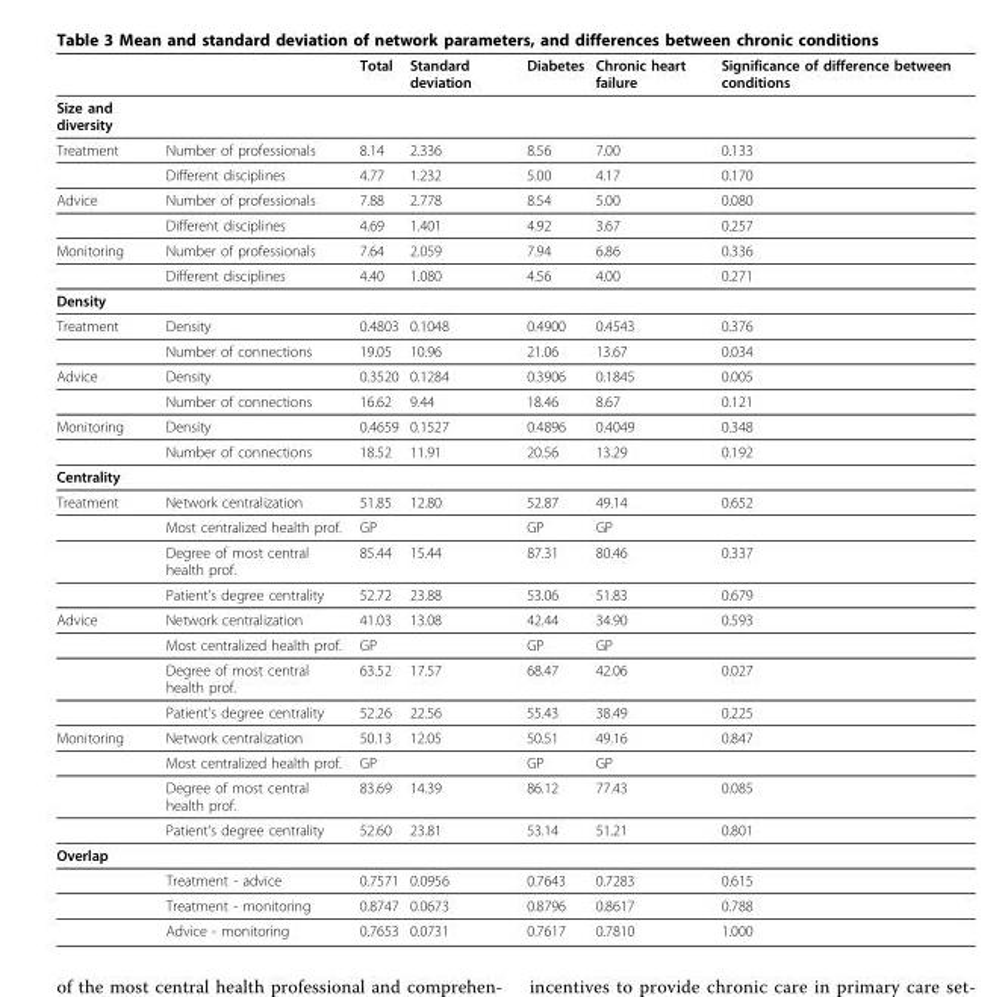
<table><thead><tr><td></td><td></td><td>Total</td><td>Standard deviation</td><td>Diabetes</td><td>Chronic heart failure</td><td>Significance of difference between conditions</td></tr></thead><tbody><tr><td colspan="7">Size and diversity</td></tr><tr><td rowspan="2">Treatment</td><td>Number of professionals</td><td>8.14</td><td>2.336</td><td>8.56</td><td>7.00</td><td>0.133</td></tr><tr><td>Different disciplines</td><td>4.77</td><td>1.232</td><td>5.00</td><td>4.17</td><td>0.170</td></tr><tr><td rowspan="2">Advice</td><td>Number of professionals</td><td>7.88</td><td>2.778</td><td>8.54</td><td>5.00</td><td>0.080</td></tr><tr><td>Different disciplines</td><td>4.69</td><td>1.401</td><td>4.92</td><td>3.67</td><td>0.257</td></tr><tr><td rowspan="2">Monitoring</td><td>Number of professionals</td><td>7.64</td><td>2.059</td><td>7.94</td><td>6.86</td><td>0.336</td></tr><tr><td>Different disciplines</td><td>4.40</td><td>1.080</td><td>4.56</td><td>4.00</td><td>0.271</td></tr><tr><td colspan="7">Density</td></tr><tr><td rowspan="2">Treatment</td><td>Density</td><td>0.4803</td><td>0.1048</td><td>0.4900</td><td>0.4543</td><td>0.376</td></tr><tr><td>Number of connections</td><td>19.05</td><td>10.96</td><td>21.06</td><td>13.67</td><td>0.034</td></tr><tr><td rowspan="2">Advice</td><td>Density</td><td>0.3520</td><td>0.1284</td><td>0.3906</td><td>0.1845</td><td>0.005</td></tr><tr><td>Number of connections</td><td>16.62</td><td>9.44</td><td>18.46</td><td>8.67</td><td>0.121</td></tr><tr><td rowspan="2">Monitoring</td><td>Density</td><td>0.4659</td><td>0.1527</td><td>0.4896</td><td>0.4049</td><td>0.348</td></tr><tr><td>Number of connections</td><td>18.52</td><td>11.91</td><td>20.56</td><td>13.29</td><td>0.192</td></tr><tr><td colspan="7">Centrality</td></tr><tr><td rowspan="4">Treatment</td><td>Network centralization</td><td>51.85</td><td>12.80</td><td>52.87</td><td>49.14</td><td>0.652</td></tr><tr><td>Most centralized health prof.</td><td>GP</td><td></td><td>GP</td><td>GP</td><td></td></tr><tr><td>Degree of most central health prof.</td><td>85.44</td><td>15.44</td><td>87.31</td><td>80.46</td><td>0.337</td></tr><tr><td>Patient’s degree centrality</td><td>52.72</td><td>23.88</td><td>53.06</td><td>51.83</td><td>0.679</td></tr><tr><td rowspan="4">Advice</td><td>Network centralization</td><td>41.03</td><td>13.08</td><td>42.44</td><td>34.90</td><td>0.593</td></tr><tr><td>Most centralized health prof.</td><td>GP</td><td></td><td>GP</td><td>GP</td><td></td></tr><tr><td>Degree of most central health prof.</td><td>63.52</td><td>17.57</td><td>68.47</td><td>42.06</td><td>0.027</td></tr><tr><td>Patient’s degree centrality</td><td>52.26</td><td>22.56</td><td>55.43</td><td>38.49</td><td>0.225</td></tr><tr><td rowspan="4">Monitoring</td><td>Network centralization</td><td>50.13</td><td>12.05</td><td>50.51</td><td>49.16</td><td>0.847</td></tr><tr><td>Most centralized health prof.</td><td>GP</td><td></td><td>GP</td><td>GP</td><td></td></tr><tr><td>Degree of most central health prof.</td><td>83.69</td><td>14.39</td><td>86.12</td><td>77.43</td><td>0.085</td></tr><tr><td>Patient’s degree centrality</td><td>52.60</td><td>23.81</td><td>53.14</td><td>51.21</td><td>0.801</td></tr><tr><td colspan="7">Overlap</td></tr><tr><td></td><td>Treatment - advice</td><td>0.7571</td><td>0.0956</td><td>0.7643</td><td>0.7283</td><td>0.615</td></tr><tr><td></td><td>Treatment - monitoring</td><td>0.8747</td><td>0.0673</td><td>0.8796</td><td>0.8617</td><td>0.788</td></tr><tr><td></td><td>Advice - monitoring</td><td>0.7653</td><td>0.0731</td><td>0.7617</td><td>0.7810</td><td>1.000</td></tr></tbody></table>